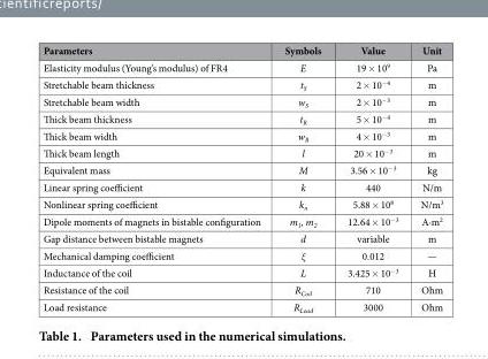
<table><thead><tr><td>Parameters</td><td>Symbols</td><td>Value</td><td>Unit</td></tr></thead><tbody><tr><td>Elasticity modulus (Young’s modulus) of FR4</td><td>E</td><td>19 × 10<sup>9</sup></td><td>Pa</td></tr><tr><td>Stretchable beam thickness</td><td>t<sub>S</sub></td><td>2 × 10<sup>−4</sup></td><td>m</td></tr><tr><td>Stretchable beam width</td><td>w<sub>S</sub></td><td>2 × 10<sup>−3</sup></td><td>m</td></tr><tr><td>Thick beam thickness</td><td>t<sub>R</sub></td><td>5 × 10<sup>−4</sup></td><td>m</td></tr><tr><td>Thick beam width</td><td>w<sub>R</sub></td><td>4 × 10<sup>−3</sup></td><td>m</td></tr><tr><td>Thick beam length</td><td>l</td><td>20 × 10<sup>−3</sup></td><td>m</td></tr><tr><td>Equivalent mass</td><td>M</td><td>3.56 × 10<sup>−3</sup></td><td>kg</td></tr><tr><td>Linear spring coefficient</td><td>k</td><td>440</td><td>N/m</td></tr><tr><td>Nonlinear spring coefficient</td><td>k<sub>n</sub></td><td>5.88 × 10<sup>8</sup></td><td>N/m<sup>3</sup></td></tr><tr><td>Dipole moments of magnets in bistable configuration</td><td>m<sub>1</sub>, m<sub>2</sub></td><td>12.64 × 10<sup>−3</sup></td><td>A·m<sup>2</sup></td></tr><tr><td>Gap distance between bistable magnets</td><td>d</td><td>variable</td><td>m</td></tr><tr><td>Mechanical damping coefficient</td><td>ξ</td><td>0.012</td><td>—</td></tr><tr><td>Inductance of the coil</td><td>L</td><td>3.425 × 10<sup>−3</sup></td><td>H</td></tr><tr><td>Resistance of the coil</td><td>R<sub>Coil</sub></td><td>710</td><td>Ohm</td></tr><tr><td>Load resistance</td><td>R<sub>Load</sub></td><td>3000</td><td>Ohm</td></tr></tbody></table>